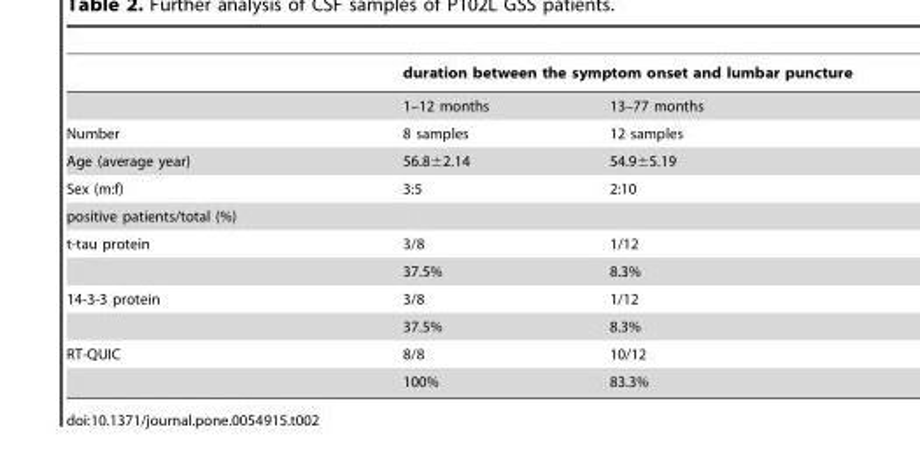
<table><thead><tr><td rowspan="2"></td><td colspan="2">duration between the symptom onset and lumbar puncture</td></tr><tr><td>1–12 months</td><td>13–77 months</td></tr></thead><tbody><tr><td>Number</td><td>8 samples</td><td>12 samples</td></tr><tr><td>Age (average year)</td><td>56.8±2.14</td><td>54.9±5.19</td></tr><tr><td>Sex (m:f)</td><td>3:5</td><td>2:10</td></tr><tr><td colspan="3">positive patients/total (%)</td></tr><tr><td rowspan="2">t-tau protein</td><td>3/8</td><td>1/12</td></tr><tr><td>37.5%</td><td>8.3%</td></tr><tr><td rowspan="2">14-3-3 protein</td><td>3/8</td><td>1/12</td></tr><tr><td>37.5%</td><td>8.3%</td></tr><tr><td rowspan="2">RT-QUIC</td><td>8/8</td><td>10/12</td></tr><tr><td>100%</td><td>83.3%</td></tr></tbody></table>